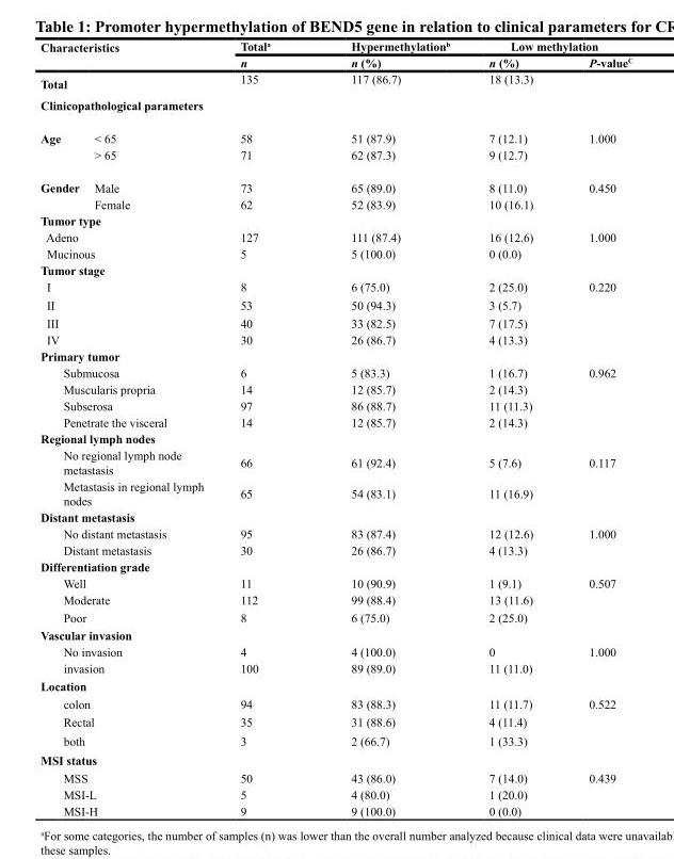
<table><thead><tr><td rowspan="2" colspan="2">Characteristics</td><td rowspan="3">Totala n 135</td><td rowspan="3">Hypermethylationb n (%) 117 (86.7)</td><td colspan="2">Low methylation</td></tr><tr><td rowspan="2">n (%) 18 (13.3)</td><td rowspan="2">P-valueC</td></tr><tr><td>Total</td><td></td></tr></thead><tbody><tr><td colspan="6">Clinicopathological parameters</td></tr><tr><td rowspan="2">Age</td><td>&lt; 65</td><td>58</td><td>51 (87.9)</td><td>7 (12.1)</td><td>1.000</td></tr><tr><td>&gt; 65</td><td>71</td><td>62 (87.3)</td><td>9 (12.7)</td><td></td></tr><tr><td rowspan="2">Gender</td><td>Male</td><td>73</td><td>65 (89.0)</td><td>8 (11.0)</td><td>0.450</td></tr><tr><td>Female</td><td>62</td><td>52 (83.9)</td><td>10 (16.1)</td><td></td></tr><tr><td colspan="6">Tumor type</td></tr><tr><td colspan="2">Adeno</td><td>127</td><td>111 (87.4)</td><td>16 (12.6)</td><td>1.000</td></tr><tr><td colspan="2">Mucinous</td><td>5</td><td>5 (100.0)</td><td>0 (0.0)</td><td></td></tr><tr><td colspan="6">Tumor stage</td></tr><tr><td colspan="2">I</td><td>8</td><td>6 (75.0)</td><td>2 (25.0)</td><td>0.220</td></tr><tr><td colspan="2">II</td><td>53</td><td>50 (94.3)</td><td>3 (5.7)</td><td></td></tr><tr><td colspan="2">III</td><td>40</td><td>33 (82.5)</td><td>7 (17.5)</td><td></td></tr><tr><td colspan="2">IV</td><td>30</td><td>26 (86.7)</td><td>4 (13.3)</td><td></td></tr><tr><td colspan="6">Primary tumor</td></tr><tr><td colspan="2">Submucosa</td><td>6</td><td>5 (83.3)</td><td>1 (16.7)</td><td>0.962</td></tr><tr><td colspan="2">Muscularis propria</td><td>14</td><td>12 (85.7)</td><td>2 (14.3)</td><td></td></tr><tr><td colspan="2">Subserosa</td><td>97</td><td>86 (88.7)</td><td>11 (11.3)</td><td></td></tr><tr><td colspan="2">Penetrate the visceral</td><td>14</td><td>12 (85.7)</td><td>2 (14.3)</td><td></td></tr><tr><td colspan="6">Regional lymph nodes</td></tr><tr><td colspan="2">No regional lymph node metastasis</td><td>66</td><td>61 (92.4)</td><td>5 (7.6)</td><td>0.117</td></tr><tr><td colspan="2">Metastasis in regional lymph nodes</td><td>65</td><td>54 (83.1)</td><td>11 (16.9)</td><td></td></tr><tr><td colspan="6">Distant metastasis</td></tr><tr><td colspan="2">No distant metastasis</td><td>95</td><td>83 (87.4)</td><td>12 (12.6)</td><td>1.000</td></tr><tr><td colspan="2">Distant metastasis</td><td>30</td><td>26 (86.7)</td><td>4 (13.3)</td><td></td></tr><tr><td colspan="6">Differentiation grade</td></tr><tr><td colspan="2">Well</td><td>11</td><td>10 (90.9)</td><td>1 (9.1)</td><td>0.507</td></tr><tr><td colspan="2">Moderate</td><td>112</td><td>99 (88.4)</td><td>13 (11.6)</td><td></td></tr><tr><td colspan="2">Poor</td><td>8</td><td>6 (75.0)</td><td>2 (25.0)</td><td></td></tr><tr><td colspan="6">Vascular invasion</td></tr><tr><td colspan="2">No invasion</td><td>4</td><td>4 (100.0)</td><td>0</td><td>1.000</td></tr><tr><td colspan="2">invasion</td><td>100</td><td>89 (89.0)</td><td>11 (11.0)</td><td></td></tr><tr><td colspan="6">Location</td></tr><tr><td colspan="2">colon</td><td>94</td><td>83 (88.3)</td><td>11 (11.7)</td><td>0.522</td></tr><tr><td colspan="2">Rectal</td><td>35</td><td>31 (88.6)</td><td>4 (11.4)</td><td></td></tr><tr><td colspan="2">both</td><td>3</td><td>2 (66.7)</td><td>1 (33.3)</td><td></td></tr><tr><td colspan="6">MSI status</td></tr><tr><td colspan="2">MSS</td><td>50</td><td>43 (86.0)</td><td>7 (14.0)</td><td>0.439</td></tr><tr><td colspan="2">MSI-L</td><td>5</td><td>4 (80.0)</td><td>1 (20.0)</td><td></td></tr><tr><td colspan="2">MSI-H</td><td>9</td><td>9 (100.0)</td><td>0 (0.0)</td><td></td></tr></tbody></table>